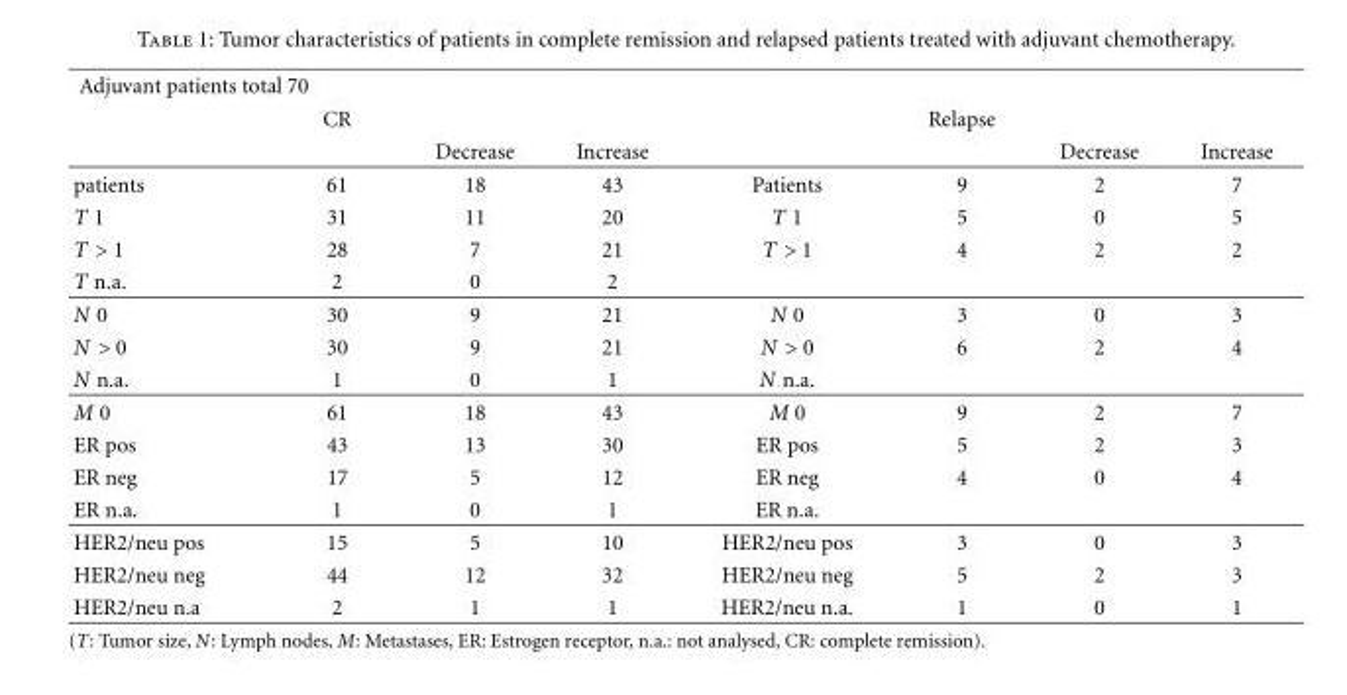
<table><thead><tr><td colspan="3">Adjuvant patients total 70</td><td rowspan="3">Increase</td><td rowspan="3"></td><td rowspan="3">Relapse</td><td rowspan="3">Decrease</td><td rowspan="3">Increase</td></tr><tr><td rowspan="2"></td><td rowspan="2">CR</td><td rowspan="2">Decrease</td></tr><tr></tr></thead><tbody><tr><td>patients</td><td>61</td><td>18</td><td>43</td><td>Patients</td><td>9</td><td>2</td><td>7</td></tr><tr><td>T 1</td><td>31</td><td>11</td><td>20</td><td>T 1</td><td>5</td><td>0</td><td>5</td></tr><tr><td>T &gt; 1</td><td>28</td><td>7</td><td>21</td><td>T &gt; 1</td><td>4</td><td>2</td><td>2</td></tr><tr><td>T n.a.</td><td>2</td><td>0</td><td>2</td><td></td><td></td><td></td><td></td></tr><tr><td>N 0</td><td>30</td><td>9</td><td>21</td><td>N 0</td><td>3</td><td>0</td><td>3</td></tr><tr><td>N &gt; 0</td><td>30</td><td>9</td><td>21</td><td>N &gt; 0</td><td>6</td><td>2</td><td>4</td></tr><tr><td>N n.a.</td><td>1</td><td>0</td><td>1</td><td>N n.a.</td><td></td><td></td><td></td></tr><tr><td>M 0</td><td>61</td><td>18</td><td>43</td><td>M 0</td><td>9</td><td>2</td><td>7</td></tr><tr><td>ER pos</td><td>43</td><td>13</td><td>30</td><td>ER pos</td><td>5</td><td>2</td><td>3</td></tr><tr><td>ER neg</td><td>17</td><td>5</td><td>12</td><td>ER neg</td><td>4</td><td>0</td><td>4</td></tr><tr><td>ER n.a.</td><td>1</td><td>0</td><td>1</td><td>ER n.a.</td><td></td><td></td><td></td></tr><tr><td>HER2/neu pos</td><td>15</td><td>5</td><td>10</td><td>HER2/neu pos</td><td>3</td><td>0</td><td>3</td></tr><tr><td>HER2/neu neg</td><td>44</td><td>12</td><td>32</td><td>HER2/neu neg</td><td>5</td><td>2</td><td>3</td></tr><tr><td>HER2/neu n.a</td><td>2</td><td>1</td><td>1</td><td>HER2/neu n.a.</td><td>1</td><td>0</td><td>1</td></tr></tbody></table>